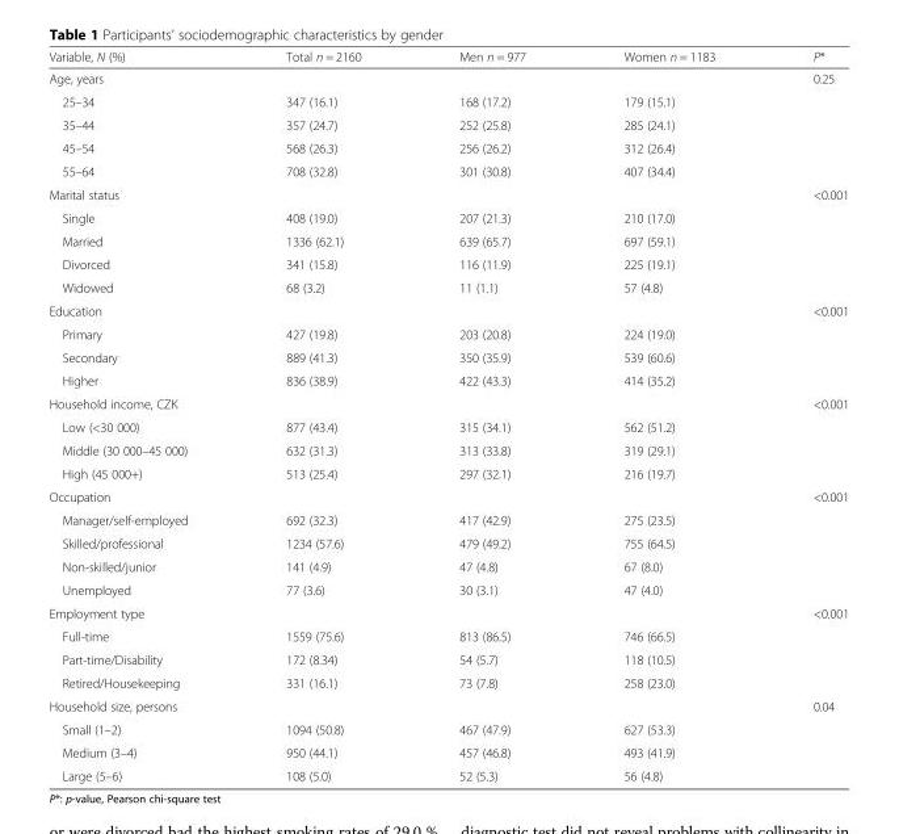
<table><thead><tr><td>Variable, N (%)</td><td>Total n = 2160</td><td>Men n = 977</td><td>Women n = 1183</td><td>P*</td></tr></thead><tbody><tr><td>Age, years</td><td></td><td></td><td></td><td>0.25</td></tr><tr><td>25–34</td><td>347 (16.1)</td><td>168 (17.2)</td><td>179 (15.1)</td><td></td></tr><tr><td>35–44</td><td>357 (24.7)</td><td>252 (25.8)</td><td>285 (24.1)</td><td></td></tr><tr><td>45–54</td><td>568 (26.3)</td><td>256 (26.2)</td><td>312 (26.4)</td><td></td></tr><tr><td>55–64</td><td>708 (32.8)</td><td>301 (30.8)</td><td>407 (34.4)</td><td></td></tr><tr><td>Marital status</td><td></td><td></td><td></td><td>&lt;0.001</td></tr><tr><td>Single</td><td>408 (19.0)</td><td>207 (21.3)</td><td>210 (17.0)</td><td></td></tr><tr><td>Married</td><td>1336 (62.1)</td><td>639 (65.7)</td><td>697 (59.1)</td><td></td></tr><tr><td>Divorced</td><td>341 (15.8)</td><td>116 (11.9)</td><td>225 (19.1)</td><td></td></tr><tr><td>Widowed</td><td>68 (3.2)</td><td>11 (1.1)</td><td>57 (4.8)</td><td></td></tr><tr><td>Education</td><td></td><td></td><td></td><td>&lt;0.001</td></tr><tr><td>Primary</td><td>427 (19.8)</td><td>203 (20.8)</td><td>224 (19.0)</td><td></td></tr><tr><td>Secondary</td><td>889 (41.3)</td><td>350 (35.9)</td><td>539 (60.6)</td><td></td></tr><tr><td>Higher</td><td>836 (38.9)</td><td>422 (43.3)</td><td>414 (35.2)</td><td></td></tr><tr><td>Household income, CZK</td><td></td><td></td><td></td><td>&lt;0.001</td></tr><tr><td>Low (&lt;30 000)</td><td>877 (43.4)</td><td>315 (34.1)</td><td>562 (51.2)</td><td></td></tr><tr><td>Middle (30 000–45 000)</td><td>632 (31.3)</td><td>313 (33.8)</td><td>319 (29.1)</td><td></td></tr><tr><td>High (45 000+)</td><td>513 (25.4)</td><td>297 (32.1)</td><td>216 (19.7)</td><td></td></tr><tr><td>Occupation</td><td></td><td></td><td></td><td>&lt;0.001</td></tr><tr><td>Manager/self-employed</td><td>692 (32.3)</td><td>417 (42.9)</td><td>275 (23.5)</td><td></td></tr><tr><td>Skilled/professional</td><td>1234 (57.6)</td><td>479 (49.2)</td><td>755 (64.5)</td><td></td></tr><tr><td>Non-skilled/junior</td><td>141 (4.9)</td><td>47 (4.8)</td><td>67 (8.0)</td><td></td></tr><tr><td>Unemployed</td><td>77 (3.6)</td><td>30 (3.1)</td><td>47 (4.0)</td><td></td></tr><tr><td>Employment type</td><td></td><td></td><td></td><td>&lt;0.001</td></tr><tr><td>Full-time</td><td>1559 (75.6)</td><td>813 (86.5)</td><td>746 (66.5)</td><td></td></tr><tr><td>Part-time/Disability</td><td>172 (8.34)</td><td>54 (5.7)</td><td>118 (10.5)</td><td></td></tr><tr><td>Retired/Housekeeping</td><td>331 (16.1)</td><td>73 (7.8)</td><td>258 (23.0)</td><td></td></tr><tr><td>Household size, persons</td><td></td><td></td><td></td><td>0.04</td></tr><tr><td>Small (1–2)</td><td>1094 (50.8)</td><td>467 (47.9)</td><td>627 (53.3)</td><td></td></tr><tr><td>Medium (3–4)</td><td>950 (44.1)</td><td>457 (46.8)</td><td>493 (41.9)</td><td></td></tr><tr><td>Large (5–6)</td><td>108 (5.0)</td><td>52 (5.3)</td><td>56 (4.8)</td><td></td></tr></tbody></table>